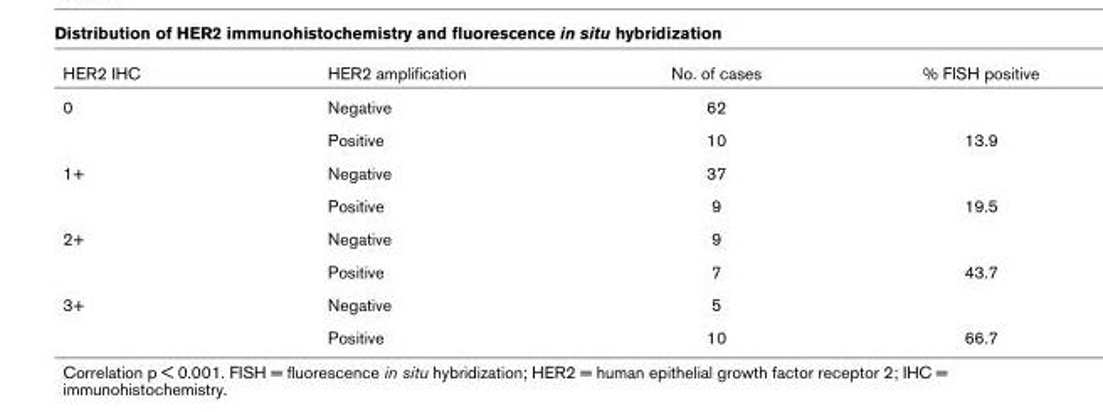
<table><thead><tr><td>HER2 IHC</td><td>HER2 amplification</td><td>No. of cases</td><td>% FISH positive</td></tr></thead><tbody><tr><td rowspan="2">0</td><td>Negative</td><td>62</td><td></td></tr><tr><td>Positive</td><td>10</td><td>13.9</td></tr><tr><td rowspan="2">1+</td><td>Negative</td><td>37</td><td></td></tr><tr><td>Positive</td><td>9</td><td>19.5</td></tr><tr><td rowspan="2">2+</td><td>Negative</td><td>9</td><td></td></tr><tr><td>Positive</td><td>7</td><td>43.7</td></tr><tr><td rowspan="2">3+</td><td>Negative</td><td>5</td><td></td></tr><tr><td>Positive</td><td>10</td><td>66.7</td></tr></tbody></table>